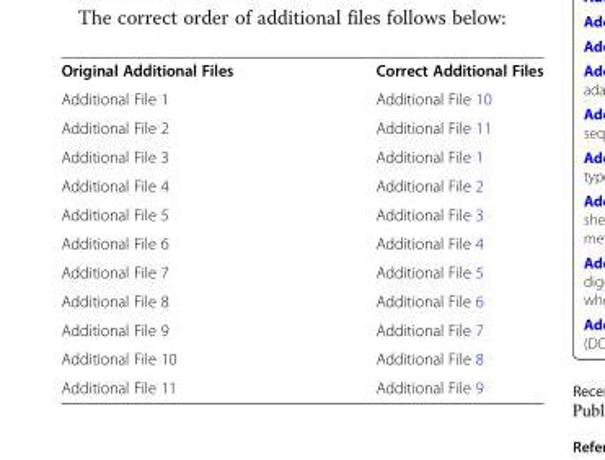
<table><tbody><tr><td>Original Additional Files</td><td>Correct Additional Files</td></tr><tr><td>Additional File 1</td><td>Additional File 10</td></tr><tr><td>Additional File 2</td><td>Additional File 11</td></tr><tr><td>Additional File 3</td><td>Additional File 1</td></tr><tr><td>Additional File 4</td><td>Additional File 2</td></tr><tr><td>Additional File 5</td><td>Additional File 3</td></tr><tr><td>Additional File 6</td><td>Additional File 4</td></tr><tr><td>Additional File 7</td><td>Additional File 5</td></tr><tr><td>Additional File 8</td><td>Additional File 6</td></tr><tr><td>Additional File 9</td><td>Additional File 7</td></tr><tr><td>Additional File 10</td><td>Additional File 8</td></tr><tr><td>Additional File 11</td><td>Additional File 9</td></tr></tbody></table>